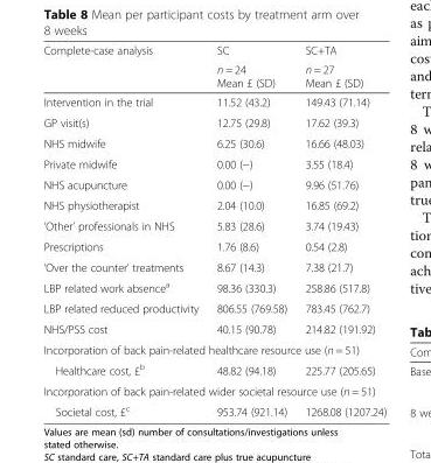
<table><thead><tr><td rowspan="2">Complete-case analysis</td><td rowspan="2">SC n = 24 Mean £ (SD)</td><td rowspan="2">SC+TA n = 27 Mean £ (SD)</td></tr><tr></tr></thead><tbody><tr><td>Intervention in the trial</td><td>11.52 (43.2)</td><td>149.43 (71.14)</td></tr><tr><td>GP visit(s)</td><td>12.75 (29.8)</td><td>17.62 (39.3)</td></tr><tr><td>NHS midwife</td><td>6.25 (30.6)</td><td>16.66 (48.03)</td></tr><tr><td>Private midwife</td><td>0.00 (−)</td><td>3.55 (18.4)</td></tr><tr><td>NHS acupuncture</td><td>0.00 (−)</td><td>9.96 (51.76)</td></tr><tr><td>NHS physiotherapist</td><td>2.04 (10.0)</td><td>16.85 (69.2)</td></tr><tr><td>‘Other’ professionals in NHS</td><td>5.83 (28.6)</td><td>3.74 (19.43)</td></tr><tr><td>Prescriptions</td><td>1.76 (8.6)</td><td>0.54 (2.8)</td></tr><tr><td>‘Over the counter’ treatments</td><td>8.67 (14.3)</td><td>7.38 (21.7)</td></tr><tr><td>LBP related work absence<sup>a</sup></td><td>98.36 (330.3)</td><td>258.86 (517.8)</td></tr><tr><td>LBP related reduced productivity</td><td>806.55 (769.58)</td><td>783.45 (762.7)</td></tr><tr><td>NHS/PSS cost</td><td>40.15 (90.78)</td><td>214.82 (191.92)</td></tr><tr><td colspan="3">Incorporation of back pain-related healthcare resource use (n = 51)</td></tr><tr><td>Healthcare cost, £<sup>b</sup></td><td>48.82 (94.18)</td><td>225.77 (205.65)</td></tr><tr><td colspan="3">Incorporation of back pain-related wider societal resource use (n = 51)</td></tr><tr><td>Societal cost, £<sup>c</sup></td><td>953.74 (921.14)</td><td>1268.08 (1207.24)</td></tr></tbody></table>